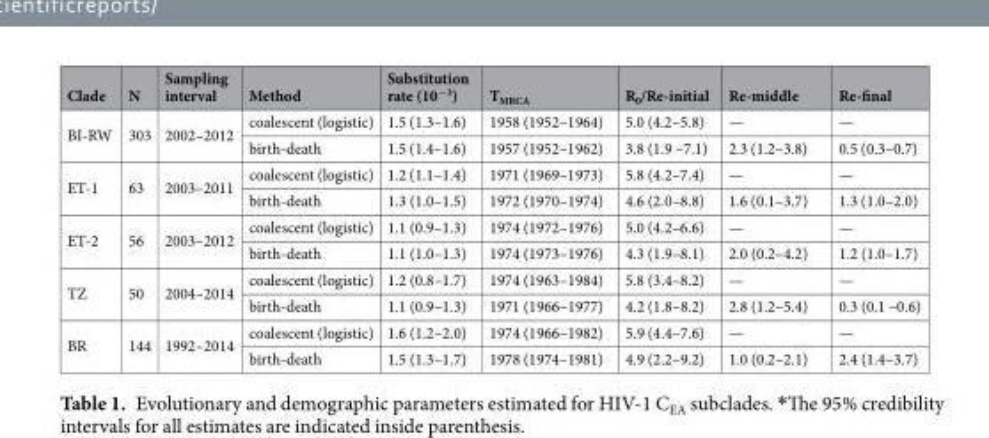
<table><thead><tr><td>Clade</td><td>N</td><td>Sampling interval</td><td>Method</td><td>Substitution rate (10<sup>−3</sup>)</td><td>T<sub>MRCA</sub></td><td>R<sub>0</sub>/Re-initial</td><td>Re-middle</td><td>Re-final</td></tr></thead><tbody><tr><td rowspan="2">BI-RW</td><td rowspan="2">303</td><td rowspan="2">2002–2012</td><td>coalescent (logistic)</td><td>1.5 (1.3–1.6)</td><td>1958 (1952–1964)</td><td>5.0 (4.2–5.8)</td><td>—</td><td>—</td></tr><tr><td>birth-death</td><td>1.5 (1.4–1.6)</td><td>1957 (1952–1962)</td><td>3.8 (1.9 –7.1)</td><td>2.3 (1.2–3.8)</td><td>0.5 (0.3–0.7)</td></tr><tr><td rowspan="2">ET-1</td><td rowspan="2">63</td><td rowspan="2">2003–2011</td><td>coalescent (logistic)</td><td>1.2 (1.1–1.4)</td><td>1971 (1969–1973)</td><td>5.8 (4.2–7.4)</td><td>—</td><td>—</td></tr><tr><td>birth-death</td><td>1.3 (1.0–1.5)</td><td>1972 (1970–1974)</td><td>4.6 (2.0–8.8)</td><td>1.6 (0.1–3.7)</td><td>1.3 (1.0–2.0)</td></tr><tr><td rowspan="2">ET-2</td><td rowspan="2">56</td><td rowspan="2">2003–2012</td><td>coalescent (logistic)</td><td>1.1 (0.9–1.3)</td><td>1974 (1972–1976)</td><td>5.0 (4.2–6.6)</td><td>—</td><td>—</td></tr><tr><td>birth-death</td><td>1.1 (1.0–1.3)</td><td>1974 (1973–1976)</td><td>4.3 (1.9–8.1)</td><td>2.0 (0.2–4.2)</td><td>1.2 (1.0–1.7)</td></tr><tr><td rowspan="2">TZ</td><td rowspan="2">50</td><td rowspan="2">2004–2014</td><td>coalescent (logistic)</td><td>1.2 (0.8–1.7)</td><td>1974 (1963–1984)</td><td>5.8 (3.4–8.2)</td><td>—</td><td>—</td></tr><tr><td>birth-death</td><td>1.1 (0.9–1.3)</td><td>1971 (1966–1977)</td><td>4.2 (1.8–8.2)</td><td>2.8 (1.2–5.4)</td><td>0.3 (0.1 –0.6)</td></tr><tr><td rowspan="2">BR</td><td rowspan="2">144</td><td rowspan="2">1992–2014</td><td>coalescent (logistic)</td><td>1.6 (1.2–2.0)</td><td>1974 (1966–1982)</td><td>5.9 (4.4–7.6)</td><td>—</td><td>—</td></tr><tr><td>birth-death</td><td>1.5 (1.3–1.7)</td><td>1978 (1974–1981)</td><td>4.9 (2.2–9.2)</td><td>1.0 (0.2–2.1)</td><td>2.4 (1.4–3.7)</td></tr></tbody></table>